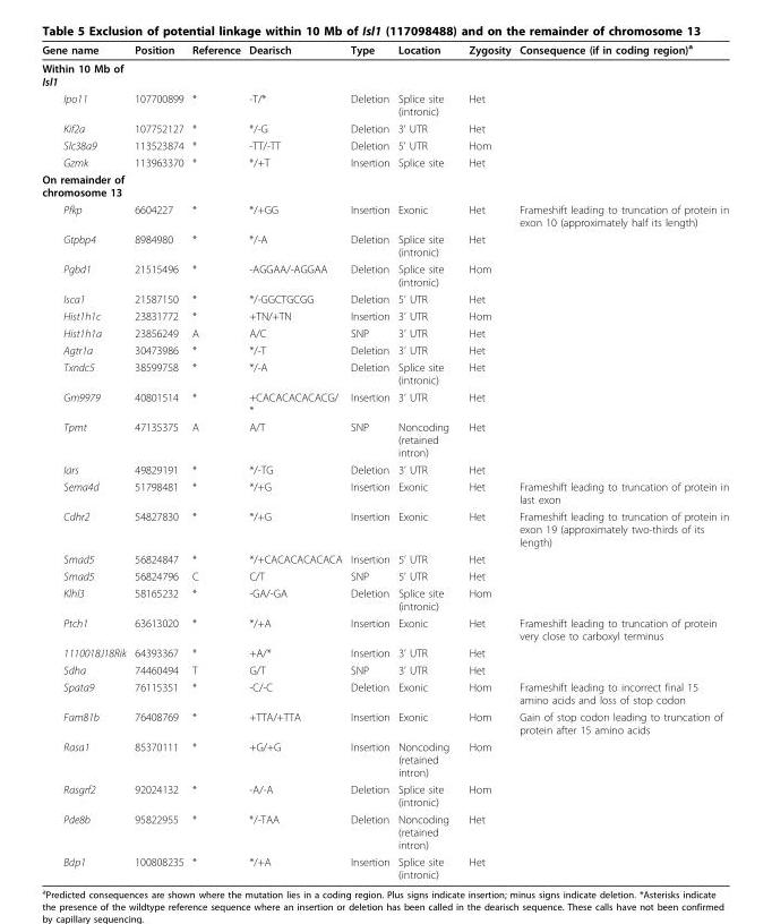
<table><thead><tr><td>Gene name</td><td>Position</td><td>Reference</td><td>Dearisch</td><td>Type</td><td>Location</td><td>Zygosity</td><td>Consequence (if in coding region)<sup>a</sup></td></tr></thead><tbody><tr><td colspan="8">Within 10 Mb of Isl1</td></tr><tr><td>Ipo11</td><td>107700899</td><td>*</td><td>-T/*</td><td>Deletion</td><td>Splice site (intronic)</td><td>Het</td><td></td></tr><tr><td>Kif2a</td><td>107752127</td><td>*</td><td>*/-G</td><td>Deletion</td><td>3’ UTR</td><td>Het</td><td></td></tr><tr><td>Slc38a9</td><td>113523874</td><td>*</td><td>-TT/-TT</td><td>Deletion</td><td>5’ UTR</td><td>Hom</td><td></td></tr><tr><td>Gzmk</td><td>113963370</td><td>*</td><td>*/+T</td><td>Insertion</td><td>Splice site</td><td>Het</td><td></td></tr><tr><td colspan="8">On remainder of chromosome 13</td></tr><tr><td>Pfkp</td><td>6604227</td><td>*</td><td>*/+GG</td><td>Insertion</td><td>Exonic</td><td>Het</td><td>Frameshift leading to truncation of protein in exon 10 (approximately half its length)</td></tr><tr><td>Gtpbp4</td><td>8984980</td><td>*</td><td>*/-A</td><td>Deletion</td><td>Splice site (intronic)</td><td>Het</td><td></td></tr><tr><td>Pgbd1</td><td>21515496</td><td>*</td><td>-AGGAA/-AGGAA</td><td>Deletion</td><td>Splice site (intronic)</td><td>Hom</td><td></td></tr><tr><td>Isca1</td><td>21587150</td><td>*</td><td>*/-GGCTGCGG</td><td>Deletion</td><td>5’ UTR</td><td>Het</td><td></td></tr><tr><td>Hist1h1c</td><td>23831772</td><td>*</td><td>+TN/+TN</td><td>Insertion</td><td>3’ UTR</td><td>Hom</td><td></td></tr><tr><td>Hist1h1a</td><td>23856249</td><td>A</td><td>A/C</td><td>SNP</td><td>3’ UTR</td><td>Het</td><td></td></tr><tr><td>Agtr1a</td><td>30473986</td><td>*</td><td>*/-T</td><td>Deletion</td><td>3’ UTR</td><td>Het</td><td></td></tr><tr><td>Txndc5</td><td>38599758</td><td>*</td><td>*/-A</td><td>Deletion</td><td>Splice site (intronic)</td><td>Het</td><td></td></tr><tr><td>Gm9979</td><td>40801514</td><td>*</td><td>+CACACACACACG/ *</td><td>Insertion</td><td>3’ UTR</td><td>Het</td><td></td></tr><tr><td>Tpmt</td><td>47135375</td><td>A</td><td>A/T</td><td>SNP</td><td>Noncoding (retained intron)</td><td>Het</td><td></td></tr><tr><td>Iars</td><td>49829191</td><td>*</td><td>*/-TG</td><td>Deletion</td><td>3’ UTR</td><td>Het</td><td></td></tr><tr><td>Sema4d</td><td>51798481</td><td>*</td><td>*/+G</td><td>Insertion</td><td>Exonic</td><td>Het</td><td>Frameshift leading to truncation of protein in last exon</td></tr><tr><td>Cdhr2</td><td>54827830</td><td>*</td><td>*/+G</td><td>Insertion</td><td>Exonic</td><td>Het</td><td>Frameshift leading to truncation of protein in exon 19 (approximately two-thirds of its length)</td></tr><tr><td>Smad5</td><td>56824847</td><td>*</td><td>*/+CACACACACACA</td><td>Insertion</td><td>5’ UTR</td><td>Het</td><td></td></tr><tr><td>Smad5</td><td>56824796</td><td>C</td><td>C/T</td><td>SNP</td><td>5’ UTR</td><td>Het</td><td></td></tr><tr><td>Klhl3</td><td>58165232</td><td>*</td><td>-GA/-GA</td><td>Deletion</td><td>Splice site (intronic)</td><td>Hom</td><td></td></tr><tr><td>Ptch1</td><td>63613020</td><td>*</td><td>*/+A</td><td>Insertion</td><td>Exonic</td><td>Het</td><td>Frameshift leading to truncation of protein very close to carboxyl terminus</td></tr><tr><td>1110018J18Rik</td><td>64393367</td><td>*</td><td>+A/*</td><td>Insertion</td><td>3’ UTR</td><td>Het</td><td></td></tr><tr><td>Sdha</td><td>74460494</td><td>T</td><td>G/T</td><td>SNP</td><td>3’ UTR</td><td>Het</td><td></td></tr><tr><td>Spata9</td><td>76115351</td><td>*</td><td>-C/-C</td><td>Deletion</td><td>Exonic</td><td>Hom</td><td>Frameshift leading to incorrect final 15 amino acids and loss of stop codon</td></tr><tr><td>Fam81b</td><td>76408769</td><td>*</td><td>+TTA/+TTA</td><td>Insertion</td><td>Exonic</td><td>Hom</td><td>Gain of stop codon leading to truncation of protein after 15 amino acids</td></tr><tr><td>Rasa1</td><td>85370111</td><td>*</td><td>+G/+G</td><td>Insertion</td><td>Noncoding (retained intron)</td><td>Hom</td><td></td></tr><tr><td>Rasgrf2</td><td>92024132</td><td>*</td><td>-A/-A</td><td>Deletion</td><td>Splice site (intronic)</td><td>Hom</td><td></td></tr><tr><td>Pde8b</td><td>95822955</td><td>*</td><td>*/-TAA</td><td>Deletion</td><td>Noncoding (retained intron)</td><td>Het</td><td></td></tr><tr><td>Bdp1</td><td>100808235</td><td>*</td><td>*/+A</td><td>Insertion</td><td>Splice site (intronic)</td><td>Het</td><td></td></tr></tbody></table>